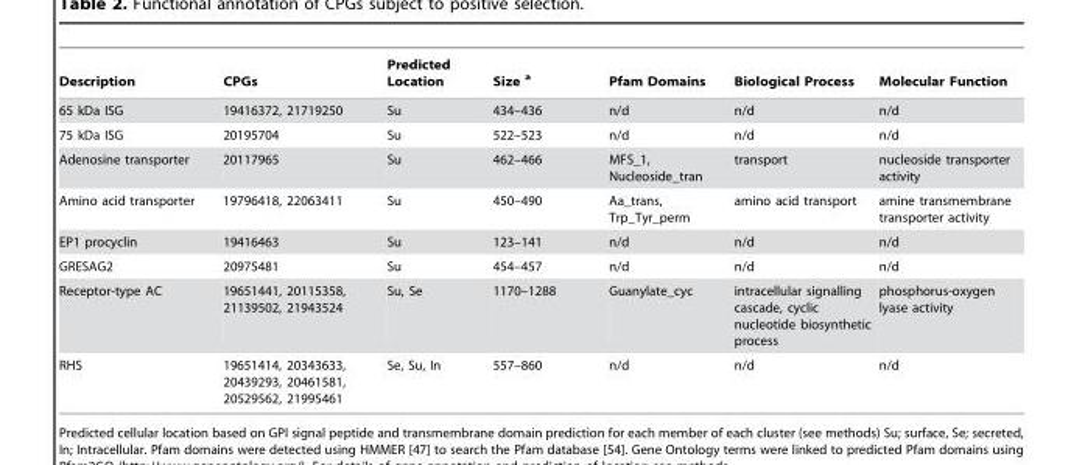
<table><thead><tr><td>Description</td><td>CPGs</td><td>Predicted Location</td><td>Size <sup>a</sup></td><td>Pfam Domains</td><td>Biological Process</td><td>Molecular Function</td></tr></thead><tbody><tr><td>65 kDa ISG</td><td>19416372, 21719250</td><td>Su</td><td>434–436</td><td>n/d</td><td>n/d</td><td>n/d</td></tr><tr><td>75 kDa ISG</td><td>20195704</td><td>Su</td><td>522–523</td><td>n/d</td><td>n/d</td><td>n/d</td></tr><tr><td>Adenosine transporter</td><td>20117965</td><td>Su</td><td>462–466</td><td>MFS_1, Nucleoside_tran</td><td>transport</td><td>nucleoside transporter activity</td></tr><tr><td>Amino acid transporter</td><td>19796418, 22063411</td><td>Su</td><td>450–490</td><td>Aa_trans, Trp_Tyr_perm</td><td>amino acid transport</td><td>amine transmembrane transporter activity</td></tr><tr><td>EP1 procyclin</td><td>19416463</td><td>Su</td><td>123–141</td><td>n/d</td><td>n/d</td><td>n/d</td></tr><tr><td>GRESAG2</td><td>20975481</td><td>Su</td><td>454–457</td><td>n/d</td><td>n/d</td><td>n/d</td></tr><tr><td>Receptor-type AC</td><td>19651441, 20115358, 21139502, 21943524</td><td>Su, Se</td><td>1170–1288</td><td>Guanylate_cyc</td><td>intracellular signalling cascade, cyclic nucleotide biosynthetic process</td><td>phosphorus-oxygen lyase activity</td></tr><tr><td>RHS</td><td>19651414, 20343633, 20439293, 20461581, 20529562, 21995461</td><td>Se, Su, In</td><td>557–860</td><td>n/d</td><td>n/d</td><td>n/d</td></tr></tbody></table>